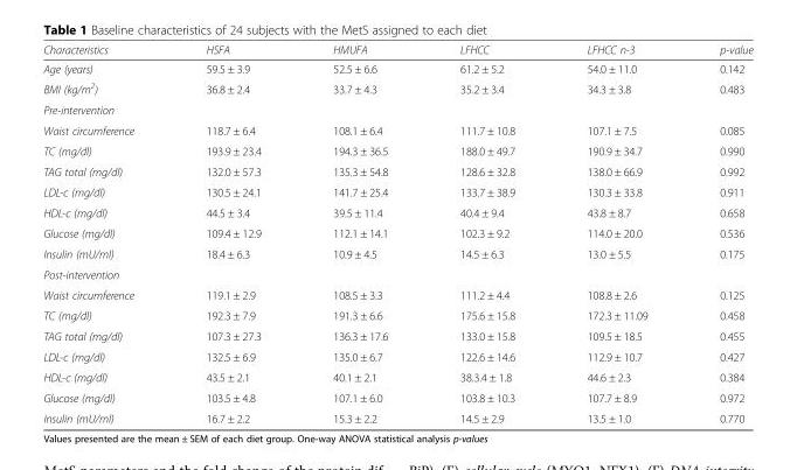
<table><thead><tr><td>Characteristics</td><td>HSFA</td><td>HMUFA</td><td>LFHCC</td><td>LFHCC n-3</td><td>p-value</td></tr></thead><tbody><tr><td>Age (years)</td><td>59.5 ± 3.9</td><td>52.5 ± 6.6</td><td>61.2 ± 5.2</td><td>54.0 ± 11.0</td><td>0.142</td></tr><tr><td>BMI (kg/m<sup>2</sup>)</td><td>36.8 ± 2.4</td><td>33.7 ± 4.3</td><td>35.2 ± 3.4</td><td>34.3 ± 3.8</td><td>0.483</td></tr><tr><td colspan="6">Pre-intervention</td></tr><tr><td>Waist circumference</td><td>118.7 ± 6.4</td><td>108.1 ± 6.4</td><td>111.7 ± 10.8</td><td>107.1 ± 7.5</td><td>0.085</td></tr><tr><td>TC (mg/dl)</td><td>193.9 ± 23.4</td><td>194.3 ± 36.5</td><td>188.0 ± 49.7</td><td>190.9 ± 34.7</td><td>0.990</td></tr><tr><td>TAG total (mg/dl)</td><td>132.0 ± 57.3</td><td>135.3 ± 54.8</td><td>128.6 ± 32.8</td><td>138.0 ± 66.9</td><td>0.992</td></tr><tr><td>LDL-c (mg/dl)</td><td>130.5 ± 24.1</td><td>141.7 ± 25.4</td><td>133.7 ± 38.9</td><td>130.3 ± 33.8</td><td>0.911</td></tr><tr><td>HDL-c (mg/dl)</td><td>44.5 ± 3.4</td><td>39.5 ± 11.4</td><td>40.4 ± 9.4</td><td>43.8 ± 8.7</td><td>0.658</td></tr><tr><td>Glucose (mg/dl)</td><td>109.4 ± 12.9</td><td>112.1 ± 14.1</td><td>102.3 ± 9.2</td><td>114.0 ± 20.0</td><td>0.536</td></tr><tr><td>Insulin (mU/ml)</td><td>18.4 ± 6.3</td><td>10.9 ± 4.5</td><td>14.5 ± 6.3</td><td>13.0 ± 5.5</td><td>0.175</td></tr><tr><td colspan="6">Post-intervention</td></tr><tr><td>Waist circumference</td><td>119.1 ± 2.9</td><td>108.5 ± 3.3</td><td>111.2 ± 4.4</td><td>108.8 ± 2.6</td><td>0.125</td></tr><tr><td>TC (mg/dl)</td><td>192.3 ± 7.9</td><td>191.3 ± 6.6</td><td>175.6 ± 15.8</td><td>172.3 ± 11.09</td><td>0.458</td></tr><tr><td>TAG total (mg/dl)</td><td>107.3 ± 27.3</td><td>136.3 ± 17.6</td><td>133.0 ± 15.8</td><td>109.5 ± 18.5</td><td>0.455</td></tr><tr><td>LDL-c (mg/dl)</td><td>132.5 ± 6.9</td><td>135.0 ± 6.7</td><td>122.6 ± 14.6</td><td>112.9 ± 10.7</td><td>0.427</td></tr><tr><td>HDL-c (mg/dl)</td><td>43.5 ± 2.1</td><td>40.1 ± 2.1</td><td>38.3.4 ± 1.8</td><td>44.6 ± 2.3</td><td>0.384</td></tr><tr><td>Glucose (mg/dl)</td><td>103.5 ± 4.8</td><td>107.1 ± 6.0</td><td>103.8 ± 10.3</td><td>107.7 ± 8.9</td><td>0.972</td></tr><tr><td>Insulin (mU/ml)</td><td>16.7 ± 2.2</td><td>15.3 ± 2.2</td><td>14.5 ± 2.9</td><td>13.5 ± 1.0</td><td>0.770</td></tr></tbody></table>